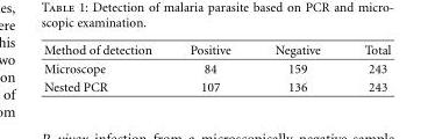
<table><thead><tr><td>Method of detection</td><td>Positive</td><td>Negative</td><td>Total</td></tr></thead><tbody><tr><td>Microscope</td><td>84</td><td>159</td><td>243</td></tr><tr><td>Nested PCR</td><td>107</td><td>136</td><td>243</td></tr></tbody></table>